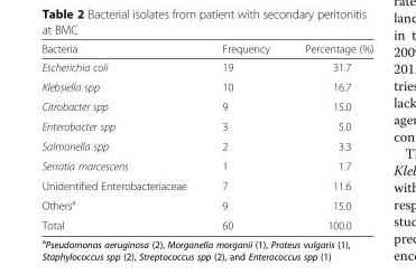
<table><thead><tr><td>Bacteria</td><td>Frequency</td><td>Percentage (%)</td></tr></thead><tbody><tr><td>Escherichia coli</td><td>19</td><td>31.7</td></tr><tr><td>Klebsiella spp</td><td>10</td><td>16.7</td></tr><tr><td>Citrobacter spp</td><td>9</td><td>15.0</td></tr><tr><td>Enterobacter spp</td><td>3</td><td>5.0</td></tr><tr><td>Salmonella spp</td><td>2</td><td>3.3</td></tr><tr><td>Serratia marcescens</td><td>1</td><td>1.7</td></tr><tr><td>Unidentified Enterobacteriaceae</td><td>7</td><td>11.6</td></tr><tr><td>Others<sup>a</sup></td><td>9</td><td>15.0</td></tr><tr><td>Total</td><td>60</td><td>100.0</td></tr></tbody></table>